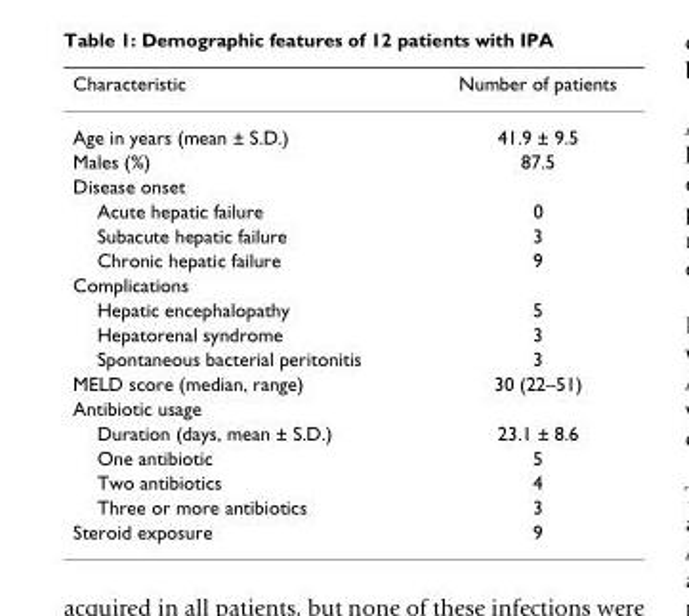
<table><thead><tr><td>Characteristic</td><td>Number of patients</td></tr></thead><tbody><tr><td>Age in years (mean ± S.D.)</td><td>41.9 ± 9.5</td></tr><tr><td>Males (%)</td><td>87.5</td></tr><tr><td colspan="2">Disease onset</td></tr><tr><td>Acute hepatic failure</td><td>0</td></tr><tr><td>Subacute hepatic failure</td><td>3</td></tr><tr><td>Chronic hepatic failure</td><td>9</td></tr><tr><td colspan="2">Complications</td></tr><tr><td>Hepatic encephalopathy</td><td>5</td></tr><tr><td>Hepatorenal syndrome</td><td>3</td></tr><tr><td>Spontaneous bacterial peritonitis</td><td>3</td></tr><tr><td>MELD score (median, range)</td><td>30 (22–51)</td></tr><tr><td colspan="2">Antibiotic usage</td></tr><tr><td>Duration (days, mean ± S.D.)</td><td>23.1 ± 8.6</td></tr><tr><td>One antibiotic</td><td>5</td></tr><tr><td>Two antibiotics</td><td>4</td></tr><tr><td>Three or more antibiotics</td><td>3</td></tr><tr><td>Steroid exposure</td><td>9</td></tr></tbody></table>